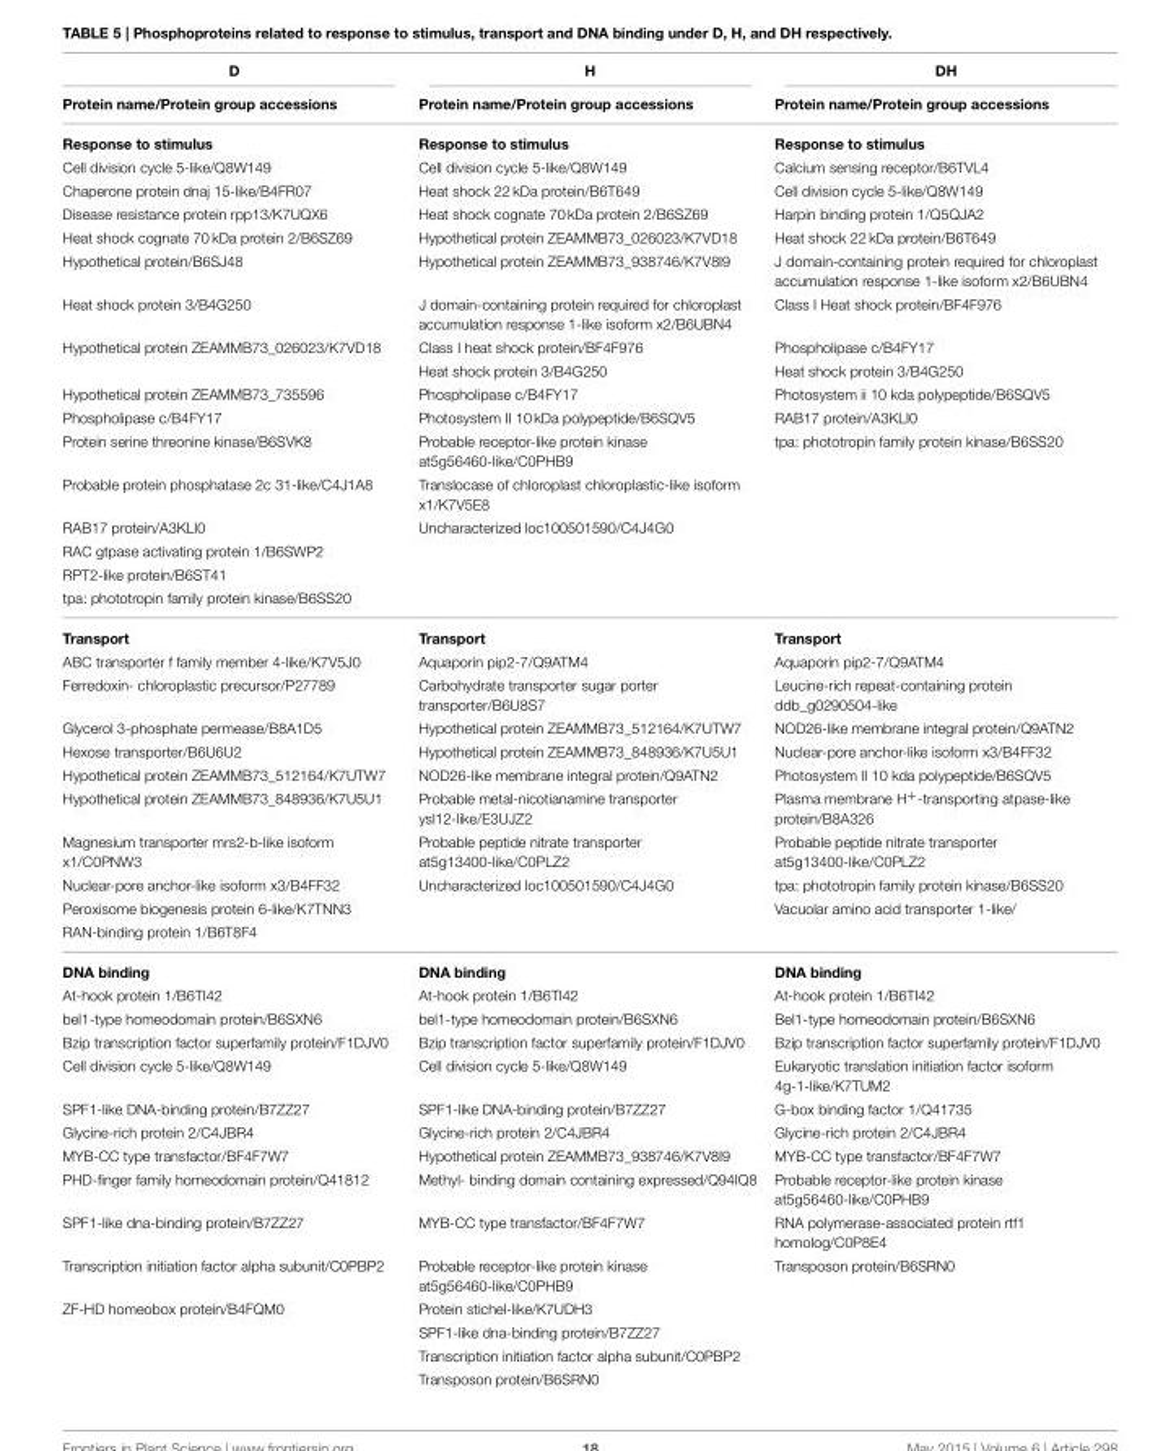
<table><thead><tr><td rowspan="2">D Protein name/Protein group accessions</td><td rowspan="2">H Protein name/Protein group accessions</td><td rowspan="2">DH Protein name/Protein group accessions</td></tr><tr></tr></thead><tbody><tr><td>Response to stimulus</td><td>Response to stimulus</td><td>Response to stimulus</td></tr><tr><td>Cell division cycle 5-like/Q8W149</td><td>Cell division cycle 5-like/Q8W149</td><td>Calcium sensing receptor/B6TVL4</td></tr><tr><td>Chaperone protein dnaj 15-like/B4FR07</td><td>Heat shock 22 kDa protein/B6T649</td><td>Cell division cycle 5-like/Q8W149</td></tr><tr><td>Disease resistance protein rpp13/K7UQX6</td><td>Heat shock cognate 70 kDa protein 2/B6SZ69</td><td>Harpin binding protein 1/Q5QJA2</td></tr><tr><td>Heat shock cognate 70 kDa protein 2/B6SZ69</td><td>Hypothetical protein ZEAMMB73_026023/K7VD18</td><td>Heat shock 22 kDa protein/B6T649</td></tr><tr><td>Hypothetical protein/B6SJ48</td><td>Hypothetical protein ZEAMMB73_938746/K7V8I9</td><td>J domain-containing protein required for chloroplast accumulation response 1-like isoform x2/B6UBN4</td></tr><tr><td>Heat shock protein 3/B4G250</td><td>J domain-containing protein required for chloroplast accumulation response 1-like isoform x2/B6UBN4</td><td>Class I Heat shock protein/BF4F976</td></tr><tr><td rowspan="2">Hypothetical protein ZEAMMB73_026023/K7VD18</td><td>Class I heat shock protein/BF4F976</td><td>Phospholipase c/B4FY17</td></tr><tr><td>Heat shock protein 3/B4G250</td><td>Heat shock protein 3/B4G250</td></tr><tr><td>Hypothetical protein ZEAMMB73_735596</td><td>Phospholipase c/B4FY17</td><td>Photosystem ii 10 kda polypeptide/B6SQV5</td></tr><tr><td>Phospholipase c/B4FY17</td><td>Photosystem II 10 kDa polypeptide/B6SQV5</td><td>RAB17 protein/A3KLI0</td></tr><tr><td>Protein serine threonine kinase/B6SVK8</td><td>Probable receptor-like protein kinase at5g56460-like/C0PHB9</td><td>tpa: phototropin family protein kinase/B6SS20</td></tr><tr><td>Probable protein phosphatase 2c 31-like/C4J1A8</td><td>Translocase of chloroplast chloroplastic-like isoform x1/K7V5E8</td><td></td></tr><tr><td>RAB17 protein/A3KLI0</td><td>Uncharacterized loc100501590/C4J4G0</td><td></td></tr><tr><td colspan="3">RAC gtpase activating protein 1/B6SWP2</td></tr><tr><td colspan="3">RPT2-like protein/B6ST41</td></tr><tr><td colspan="3">tpa: phototropin family protein kinase/B6SS20</td></tr><tr><td>Transport</td><td>Transport</td><td>Transport</td></tr><tr><td>ABC transporter f family member 4-like/K7V5J0</td><td>Aquaporin pip2-7/Q9ATM4</td><td>Aquaporin pip2-7/Q9ATM4</td></tr><tr><td>Ferredoxin- chloroplastic precursor/P27789</td><td>Carbohydrate transporter sugar porter transporter/B6U8S7</td><td>Leucine-rich repeat-containing protein ddb_g0290504-like</td></tr><tr><td>Glycerol 3-phosphate permease/B8A1D5</td><td>Hypothetical protein ZEAMMB73_512164/K7UTW7</td><td>NOD26-like membrane integral protein/Q9ATN2</td></tr><tr><td>Hexose transporter/B6U6U2</td><td>Hypothetical protein ZEAMMB73_848936/K7U5U1</td><td>Nuclear-pore anchor-like isoform x3/B4FF32</td></tr><tr><td>Hypothetical protein ZEAMMB73_512164/K7UTW7</td><td>NOD26-like membrane integral protein/Q9ATN2</td><td>Photosystem II 10 kda polypeptide/B6SQV5</td></tr><tr><td>Hypothetical protein ZEAMMB73_848936/K7U5U1</td><td>Probable metal-nicotianamine transporter ysl12-like/E3UJZ2</td><td>Plasma membrane H<sup>+</sup>-transporting atpase-like protein/B8A326</td></tr><tr><td>Magnesium transporter mrs2-b-like isoform x1/C0PNW3</td><td>Probable peptide nitrate transporter at5g13400-like/C0PLZ2</td><td>Probable peptide nitrate transporter at5g13400-like/C0PLZ2</td></tr><tr><td>Nuclear-pore anchor-like isoform x3/B4FF32</td><td>Uncharacterized loc100501590/C4J4G0</td><td>tpa: phototropin family protein kinase/B6SS20</td></tr><tr><td>Peroxisome biogenesis protein 6-like/K7TNN3</td><td></td><td>Vacuolar amino acid transporter 1-like/</td></tr><tr><td colspan="3">RAN-binding protein 1/B6T8F4</td></tr><tr><td>DNA binding</td><td>DNA binding</td><td>DNA binding</td></tr><tr><td>At-hook protein 1/B6TI42</td><td>At-hook protein 1/B6TI42</td><td>At-hook protein 1/B6TI42</td></tr><tr><td>bel1-type homeodomain protein/B6SXN6</td><td>bel1-type homeodomain protein/B6SXN6</td><td>Bel1-type homeodomain protein/B6SXN6</td></tr><tr><td>Bzip transcription factor superfamily protein/F1DJV0</td><td>Bzip transcription factor superfamily protein/F1DJV0</td><td>Bzip transcription factor superfamily protein/F1DJV0</td></tr><tr><td>Cell division cycle 5-like/Q8W149</td><td>Cell division cycle 5-like/Q8W149</td><td>Eukaryotic translation initiation factor isoform 4g-1-like/K7TUM2</td></tr><tr><td>SPF1-like DNA-binding protein/B7ZZ27</td><td>SPF1-like DNA-binding protein/B7ZZ27</td><td>G-box binding factor 1/Q41735</td></tr><tr><td>Glycine-rich protein 2/C4JBR4</td><td>Glycine-rich protein 2/C4JBR4</td><td>Glycine-rich protein 2/C4JBR4</td></tr><tr><td>MYB-CC type transfactor/BF4F7W7</td><td>Hypothetical protein ZEAMMB73_938746/K7V8I9</td><td>MYB-CC type transfactor/BF4F7W7</td></tr><tr><td>PHD-finger family homeodomain protein/Q41812</td><td>Methyl- binding domain containing expressed/Q94IQ8</td><td>Probable receptor-like protein kinase at5g56460-like/C0PHB9</td></tr><tr><td>SPF1-like dna-binding protein/B7ZZ27</td><td>MYB-CC type transfactor/BF4F7W7</td><td>RNA polymerase-associated protein rtf1 homolog/C0P8E4</td></tr><tr><td>Transcription initiation factor alpha subunit/C0PBP2</td><td>Probable receptor-like protein kinase at5g56460-like/C0PHB9</td><td>Transposon protein/B6SRN0</td></tr><tr><td rowspan="4">ZF-HD homeobox protein/B4FQM0</td><td>Protein stichel-like/K7UDH3</td><td></td></tr><tr><td>SPF1-like dna-binding protein/B7ZZ27</td><td></td></tr><tr><td>Transcription initiation factor alpha subunit/C0PBP2</td><td></td></tr><tr><td>Transposon protein/B6SRN0</td><td></td></tr></tbody></table>